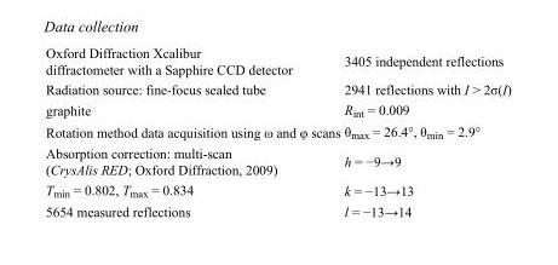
<table><tbody><tr><td>Oxford Diffraction Xcalibur diffractometer with a Sapphire CCD detector</td><td>3405 independent reflections</td></tr><tr><td>Radiation source: fine-focus sealed tube</td><td>2941 reflections with I &gt; 2σ(I)</td></tr><tr><td>graphite</td><td>R<sub>int</sub> = 0.009</td></tr><tr><td>Rotation method data acquisition using ω and φ scans</td><td>θ<sub>max</sub> = 26.4°, θ<sub>min</sub> = 2.9°</td></tr><tr><td>Absorption correction: multi-scan (CrysAlis RED; Oxford Diffraction, 2009)</td><td>h = −9→9</td></tr><tr><td>T<sub>min</sub> = 0.802, T<sub>max</sub> = 0.834</td><td>k = −13→13</td></tr><tr><td>5654 measured reflections</td><td>l = −13→14</td></tr></tbody></table>